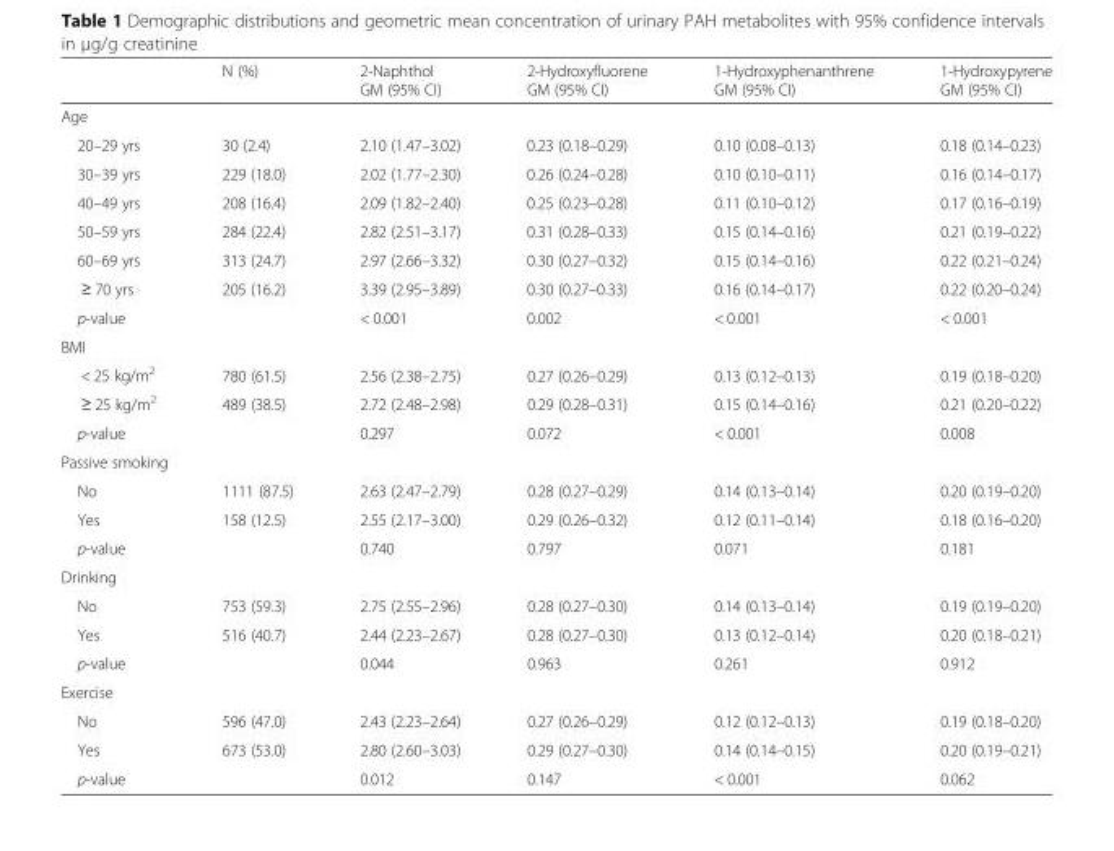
<table><thead><tr><td></td><td>N (%)</td><td>2-Naphthol GM (95% CI)</td><td>2-Hydroxyfluorene GM (95% CI)</td><td>1-Hydroxyphenanthrene GM (95% CI)</td><td>1-Hydroxypyrene GM (95% CI)</td></tr></thead><tbody><tr><td colspan="6">Age</td></tr><tr><td>20–29 yrs</td><td>30 (2.4)</td><td>2.10 (1.47–3.02)</td><td>0.23 (0.18–0.29)</td><td>0.10 (0.08–0.13)</td><td>0.18 (0.14–0.23)</td></tr><tr><td>30–39 yrs</td><td>229 (18.0)</td><td>2.02 (1.77–2.30)</td><td>0.26 (0.24–0.28)</td><td>0.10 (0.10–0.11)</td><td>0.16 (0.14–0.17)</td></tr><tr><td>40–49 yrs</td><td>208 (16.4)</td><td>2.09 (1.82–2.40)</td><td>0.25 (0.23–0.28)</td><td>0.11 (0.10–0.12)</td><td>0.17 (0.16–0.19)</td></tr><tr><td>50–59 yrs</td><td>284 (22.4)</td><td>2.82 (2.51–3.17)</td><td>0.31 (0.28–0.33)</td><td>0.15 (0.14–0.16)</td><td>0.21 (0.19–0.22)</td></tr><tr><td>60–69 yrs</td><td>313 (24.7)</td><td>2.97 (2.66–3.32)</td><td>0.30 (0.27–0.32)</td><td>0.15 (0.14–0.16)</td><td>0.22 (0.21–0.24)</td></tr><tr><td>≥ 70 yrs</td><td>205 (16.2)</td><td>3.39 (2.95–3.89)</td><td>0.30 (0.27–0.33)</td><td>0.16 (0.14–0.17)</td><td>0.22 (0.20–0.24)</td></tr><tr><td>p-value</td><td></td><td>&lt; 0.001</td><td>0.002</td><td>&lt; 0.001</td><td>&lt; 0.001</td></tr><tr><td colspan="6">BMI</td></tr><tr><td>&lt; 25 kg/m<sup>2</sup></td><td>780 (61.5)</td><td>2.56 (2.38–2.75)</td><td>0.27 (0.26–0.29)</td><td>0.13 (0.12–0.13)</td><td>0.19 (0.18–0.20)</td></tr><tr><td>≥ 25 kg/m<sup>2</sup></td><td>489 (38.5)</td><td>2.72 (2.48–2.98)</td><td>0.29 (0.28–0.31)</td><td>0.15 (0.14–0.16)</td><td>0.21 (0.20–0.22)</td></tr><tr><td>p-value</td><td></td><td>0.297</td><td>0.072</td><td>&lt; 0.001</td><td>0.008</td></tr><tr><td colspan="6">Passive smoking</td></tr><tr><td>No</td><td>1111 (87.5)</td><td>2.63 (2.47–2.79)</td><td>0.28 (0.27–0.29)</td><td>0.14 (0.13–0.14)</td><td>0.20 (0.19–0.20)</td></tr><tr><td>Yes</td><td>158 (12.5)</td><td>2.55 (2.17–3.00)</td><td>0.29 (0.26–0.32)</td><td>0.12 (0.11–0.14)</td><td>0.18 (0.16–0.20)</td></tr><tr><td>p-value</td><td></td><td>0.740</td><td>0.797</td><td>0.071</td><td>0.181</td></tr><tr><td colspan="6">Drinking</td></tr><tr><td>No</td><td>753 (59.3)</td><td>2.75 (2.55–2.96)</td><td>0.28 (0.27–0.30)</td><td>0.14 (0.13–0.14)</td><td>0.19 (0.19–0.20)</td></tr><tr><td>Yes</td><td>516 (40.7)</td><td>2.44 (2.23–2.67)</td><td>0.28 (0.27–0.30)</td><td>0.13 (0.12–0.14)</td><td>0.20 (0.18–0.21)</td></tr><tr><td>p-value</td><td></td><td>0.044</td><td>0.963</td><td>0.261</td><td>0.912</td></tr><tr><td colspan="6">Exercise</td></tr><tr><td>No</td><td>596 (47.0)</td><td>2.43 (2.23–2.64)</td><td>0.27 (0.26–0.29)</td><td>0.12 (0.12–0.13)</td><td>0.19 (0.18–0.20)</td></tr><tr><td>Yes</td><td>673 (53.0)</td><td>2.80 (2.60–3.03)</td><td>0.29 (0.27–0.30)</td><td>0.14 (0.14–0.15)</td><td>0.20 (0.19–0.21)</td></tr><tr><td>p-value</td><td></td><td>0.012</td><td>0.147</td><td>&lt; 0.001</td><td>0.062</td></tr></tbody></table>